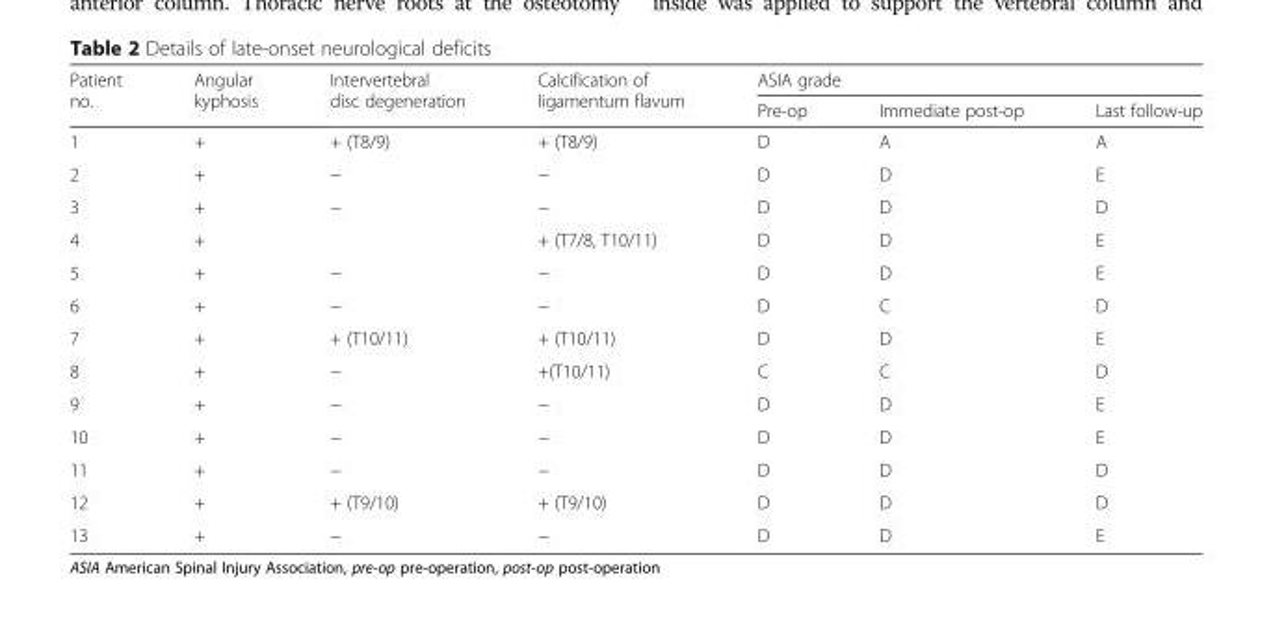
<table><thead><tr><td rowspan="2">Patient no.</td><td rowspan="2">Angular kyphosis</td><td rowspan="2">Intervertebral disc degeneration</td><td rowspan="2">Calcification of ligamentum flavum</td><td colspan="3">ASIA grade</td></tr><tr><td>Pre-op</td><td>Immediate post-op</td><td>Last follow-up</td></tr></thead><tbody><tr><td>1</td><td>+</td><td>+ (T8/9)</td><td>+ (T8/9)</td><td>D</td><td>A</td><td>A</td></tr><tr><td>2</td><td>+</td><td>−</td><td>−</td><td>D</td><td>D</td><td>E</td></tr><tr><td>3</td><td>+</td><td>−</td><td>−</td><td>D</td><td>D</td><td>D</td></tr><tr><td>4</td><td>+</td><td></td><td>+ (T7/8, T10/11)</td><td>D</td><td>D</td><td>E</td></tr><tr><td>5</td><td>+</td><td>−</td><td>−</td><td>D</td><td>D</td><td>E</td></tr><tr><td>6</td><td>+</td><td>−</td><td>−</td><td>D</td><td>C</td><td>D</td></tr><tr><td>7</td><td>+</td><td>+ (T10/11)</td><td>+ (T10/11)</td><td>D</td><td>D</td><td>E</td></tr><tr><td>8</td><td>+</td><td>−</td><td>+(T10/11)</td><td>C</td><td>C</td><td>D</td></tr><tr><td>9</td><td>+</td><td>−</td><td>−</td><td>D</td><td>D</td><td>E</td></tr><tr><td>10</td><td>+</td><td>−</td><td>−</td><td>D</td><td>D</td><td>E</td></tr><tr><td>11</td><td>+</td><td>−</td><td>−</td><td>D</td><td>D</td><td>D</td></tr><tr><td>12</td><td>+</td><td>+ (T9/10)</td><td>+ (T9/10)</td><td>D</td><td>D</td><td>D</td></tr><tr><td>13</td><td>+</td><td>−</td><td>−</td><td>D</td><td>D</td><td>E</td></tr></tbody></table>